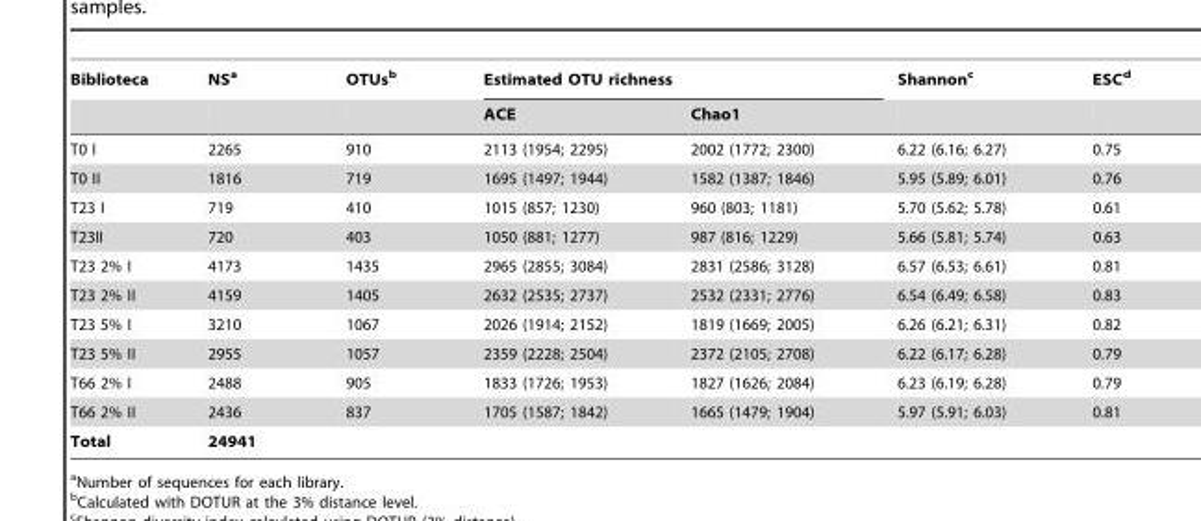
<table><thead><tr><td rowspan="2">Biblioteca</td><td rowspan="2">NS<sup>a</sup></td><td rowspan="2">OTUs<sup>b</sup></td><td colspan="2">Estimated OTU richness</td><td rowspan="2">Shannon<sup>c</sup></td><td rowspan="2">ESC<sup>d</sup></td></tr><tr><td>ACE</td><td>Chao1</td></tr></thead><tbody><tr><td>T0 I</td><td>2265</td><td>910</td><td>2113 (1954; 2295)</td><td>2002 (1772; 2300)</td><td>6.22 (6.16; 6.27)</td><td>0.75</td></tr><tr><td>T0 II</td><td>1816</td><td>719</td><td>1695 (1497; 1944)</td><td>1582 (1387; 1846)</td><td>5.95 (5.89; 6.01)</td><td>0.76</td></tr><tr><td>T23 I</td><td>719</td><td>410</td><td>1015 (857; 1230)</td><td>960 (803; 1181)</td><td>5.70 (5.62; 5.78)</td><td>0.61</td></tr><tr><td>T23II</td><td>720</td><td>403</td><td>1050 (881; 1277)</td><td>987 (816; 1229)</td><td>5.66 (5.81; 5.74)</td><td>0.63</td></tr><tr><td>T23 2% I</td><td>4173</td><td>1435</td><td>2965 (2855; 3084)</td><td>2831 (2586; 3128)</td><td>6.57 (6.53; 6.61)</td><td>0.81</td></tr><tr><td>T23 2% II</td><td>4159</td><td>1405</td><td>2632 (2535; 2737)</td><td>2532 (2331; 2776)</td><td>6.54 (6.49; 6.58)</td><td>0.83</td></tr><tr><td>T23 5% I</td><td>3210</td><td>1067</td><td>2026 (1914; 2152)</td><td>1819 (1669; 2005)</td><td>6.26 (6.21; 6.31)</td><td>0.82</td></tr><tr><td>T23 5% II</td><td>2955</td><td>1057</td><td>2359 (2228; 2504)</td><td>2372 (2105; 2708)</td><td>6.22 (6.17; 6.28)</td><td>0.79</td></tr><tr><td>T66 2% I</td><td>2488</td><td>905</td><td>1833 (1726; 1953)</td><td>1827 (1626; 2084)</td><td>6.23 (6.19; 6.28)</td><td>0.79</td></tr><tr><td>T66 2% II</td><td>2436</td><td>837</td><td>1705 (1587; 1842)</td><td>1665 (1479; 1904)</td><td>5.97 (5.91; 6.03)</td><td>0.81</td></tr><tr><td>Total</td><td>24941</td><td></td><td></td><td></td><td></td><td></td></tr></tbody></table>